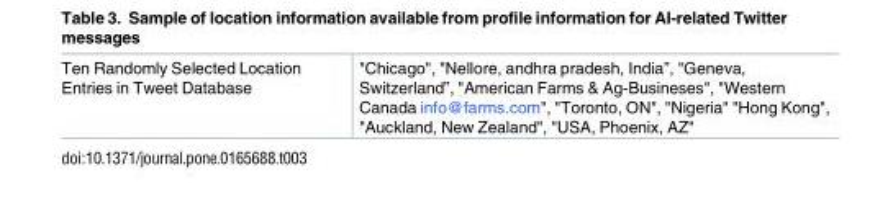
<table><tbody><tr><td>Ten Randomly Selected Location Entries in Tweet Database</td><td>&quot;Chicago&quot;, &quot;Nellore, andhra pradesh, India”, &quot;Geneva, Switzerland”, &quot;American Farms &amp; Ag-Busineses&quot;, &quot;Western Canada info@farms.com&quot;, &quot;Toronto, ON&quot;, &quot;Nigeria&quot; &quot;Hong Kong&quot;, &quot;Auckland, New Zealand&quot;, &quot;USA, Phoenix, AZ&quot;</td></tr></tbody></table>